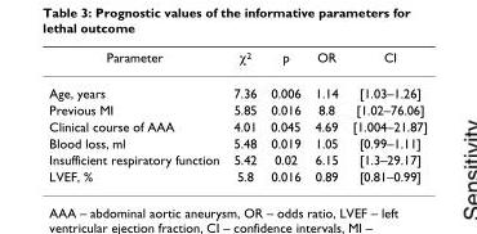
<table><thead><tr><td>Parameter</td><td>χ<sup>2</sup></td><td>p</td><td>OR</td><td>CI</td></tr></thead><tbody><tr><td>Age, years</td><td>7.36</td><td>0.006</td><td>1.14</td><td>[1.03–1.26]</td></tr><tr><td>Previous MI</td><td>5.85</td><td>0.016</td><td>8.8</td><td>[1.02–76.06]</td></tr><tr><td>Clinical course of AAA</td><td>4.01</td><td>0.045</td><td>4.69</td><td>[1.004–21.87]</td></tr><tr><td>Blood loss, ml</td><td>5.48</td><td>0.019</td><td>1.05</td><td>[0.99–1.11]</td></tr><tr><td>Insufficient respiratory function</td><td>5.42</td><td>0.02</td><td>6.15</td><td>[1.3–29.17]</td></tr><tr><td>LVEF, %</td><td>5.8</td><td>0.016</td><td>0.89</td><td>[0.81–0.99]</td></tr></tbody></table>